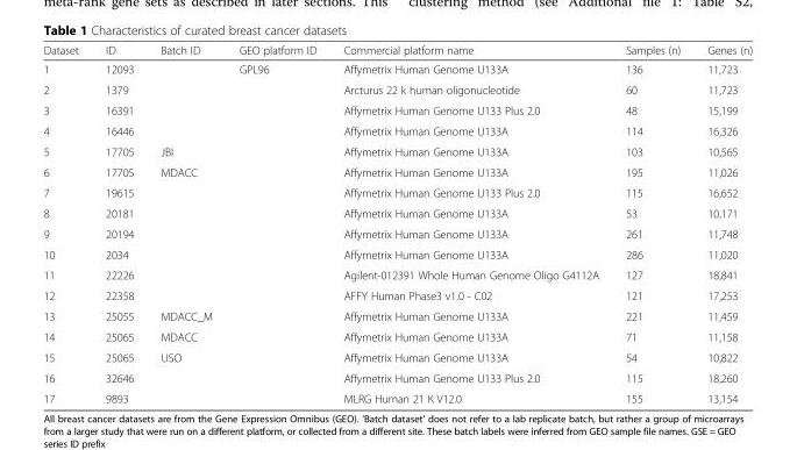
<table><thead><tr><td>Dataset</td><td>ID</td><td>Batch ID</td><td>GEO platform ID</td><td>Commercial platform name</td><td>Samples (n)</td><td>Genes (n)</td></tr></thead><tbody><tr><td>1</td><td>12093</td><td></td><td>GPL96</td><td>Affymetrix Human Genome U133A</td><td>136</td><td>11,723</td></tr><tr><td>2</td><td>1379</td><td></td><td></td><td>Arcturus 22 k human oligonucleotide</td><td>60</td><td>11,723</td></tr><tr><td>3</td><td>16391</td><td></td><td></td><td>Affymetrix Human Genome U133 Plus 2.0</td><td>48</td><td>15,199</td></tr><tr><td>4</td><td>16446</td><td></td><td></td><td>Affymetrix Human Genome U133A</td><td>114</td><td>16,326</td></tr><tr><td>5</td><td>17705</td><td>JBI</td><td></td><td>Affymetrix Human Genome U133A</td><td>103</td><td>10,565</td></tr><tr><td>6</td><td>17705</td><td>MDACC</td><td></td><td>Affymetrix Human Genome U133A</td><td>195</td><td>11,026</td></tr><tr><td>7</td><td>19615</td><td></td><td></td><td>Affymetrix Human Genome U133 Plus 2.0</td><td>115</td><td>16,652</td></tr><tr><td>8</td><td>20181</td><td></td><td></td><td>Affymetrix Human Genome U133A</td><td>53</td><td>10,171</td></tr><tr><td>9</td><td>20194</td><td></td><td></td><td>Affymetrix Human Genome U133A</td><td>261</td><td>11,748</td></tr><tr><td>10</td><td>2034</td><td></td><td></td><td>Affymetrix Human Genome U133A</td><td>286</td><td>11,020</td></tr><tr><td>11</td><td>22226</td><td></td><td></td><td>Agilent-012391 Whole Human Genome Oligo G4112A</td><td>127</td><td>18,841</td></tr><tr><td>12</td><td>22358</td><td></td><td></td><td>AFFY Human Phase3 v1.0 - C02</td><td>121</td><td>17,253</td></tr><tr><td>13</td><td>25055</td><td>MDACC_M</td><td></td><td>Affymetrix Human Genome U133A</td><td>221</td><td>11,459</td></tr><tr><td>14</td><td>25065</td><td>MDACC</td><td></td><td>Affymetrix Human Genome U133A</td><td>71</td><td>11,158</td></tr><tr><td>15</td><td>25065</td><td>USO</td><td></td><td>Affymetrix Human Genome U133A</td><td>54</td><td>10,822</td></tr><tr><td>16</td><td>32646</td><td></td><td></td><td>Affymetrix Human Genome U133 Plus 2.0</td><td>115</td><td>18,260</td></tr><tr><td>17</td><td>9893</td><td></td><td></td><td>MLRG Human 21 K V12.0</td><td>155</td><td>13,154</td></tr></tbody></table>